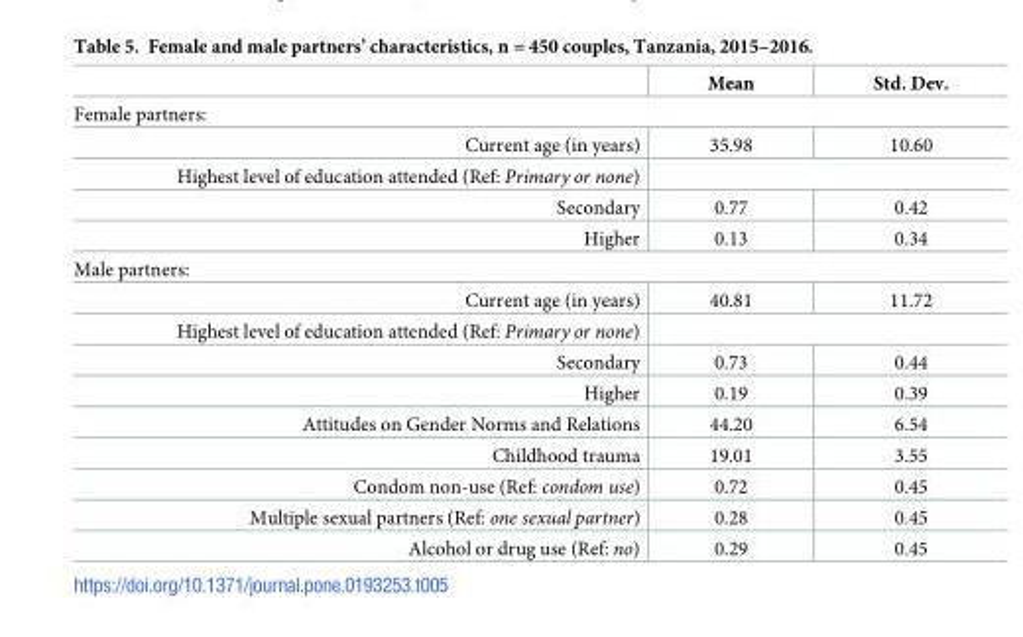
<table><thead><tr><td></td><td>Mean</td><td>Std. Dev.</td></tr></thead><tbody><tr><td colspan="3">Female partners:</td></tr><tr><td>Current age (in years)</td><td>35.98</td><td>10.60</td></tr><tr><td colspan="3">Highest level of education attended (Ref: Primary or none)</td></tr><tr><td>Secondary</td><td>0.77</td><td>0.42</td></tr><tr><td>Higher</td><td>0.13</td><td>0.34</td></tr><tr><td colspan="3">Male partners:</td></tr><tr><td>Current age (in years)</td><td>40.81</td><td>11.72</td></tr><tr><td colspan="3">Highest level of education attended (Ref: Primary or none)</td></tr><tr><td>Secondary</td><td>0.73</td><td>0.44</td></tr><tr><td>Higher</td><td>0.19</td><td>0.39</td></tr><tr><td>Attitudes on Gender Norms and Relations</td><td>44.20</td><td>6.54</td></tr><tr><td>Childhood trauma</td><td>19.01</td><td>3.55</td></tr><tr><td>Condom non-use (Ref: condom use)</td><td>0.72</td><td>0.45</td></tr><tr><td>Multiple sexual partners (Ref: one sexual partner)</td><td>0.28</td><td>0.45</td></tr><tr><td>Alcohol or drug use (Ref: no)</td><td>0.29</td><td>0.45</td></tr></tbody></table>